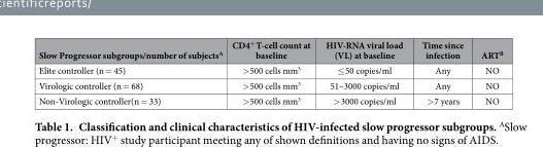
<table><thead><tr><td>Slow Progressor subgroups/number of subjects<sup>A</sup></td><td>CD4<sup>+</sup> T-cell count at baseline</td><td>HIV-RNA viral load (VL) at baseline</td><td>Time since infection</td><td>ART<sup>B</sup></td></tr></thead><tbody><tr><td>Elite controller (n = 45)</td><td>&gt; 500 cells mm<sup>3</sup></td><td>≤ 50 copies/ml</td><td>Any</td><td>NO</td></tr><tr><td>Virologic controller (n = 68)</td><td>&gt; 500 cells mm<sup>3</sup></td><td>51–3000 copies/ml</td><td>Any</td><td>NO</td></tr><tr><td>Non-Virologic controller(n = 33)</td><td>&gt; 500 cells mm<sup>3</sup></td><td>&gt; 3000 copies/ml</td><td>&gt; 7 years</td><td>NO</td></tr></tbody></table>